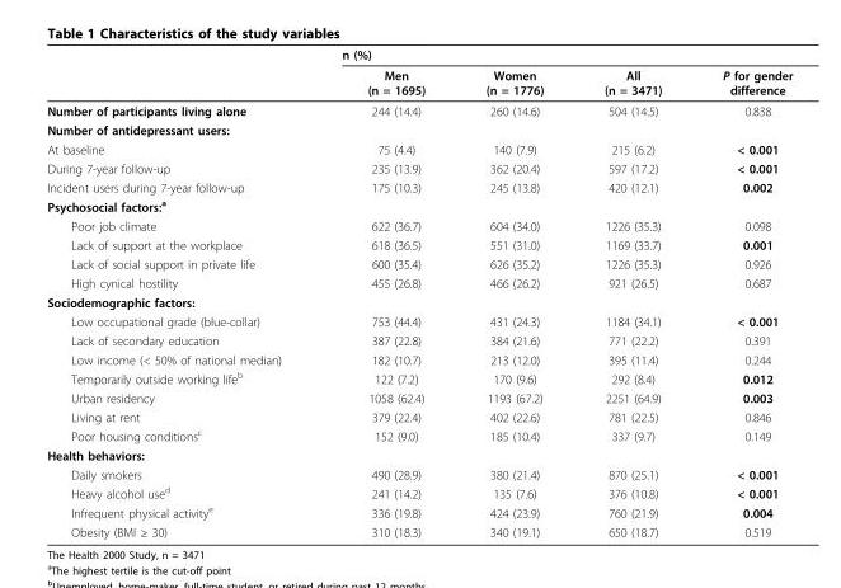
<table><thead><tr><td rowspan="2"></td><td colspan="4">n (%)</td></tr><tr><td>Men (n = 1695)</td><td>Women (n = 1776)</td><td>All (n = 3471)</td><td>P for gender difference</td></tr></thead><tbody><tr><td>Number of participants living alone</td><td>244 (14.4)</td><td>260 (14.6)</td><td>504 (14.5)</td><td>0.838</td></tr><tr><td colspan="5">Number of antidepressant users:</td></tr><tr><td>At baseline</td><td>75 (4.4)</td><td>140 (7.9)</td><td>215 (6.2)</td><td>&lt; 0.001</td></tr><tr><td>During 7-year follow-up</td><td>235 (13.9)</td><td>362 (20.4)</td><td>597 (17.2)</td><td>&lt; 0.001</td></tr><tr><td>Incident users during 7-year follow-up</td><td>175 (10.3)</td><td>245 (13.8)</td><td>420 (12.1)</td><td>0.002</td></tr><tr><td colspan="5">Psychosocial factors:<sup>a</sup></td></tr><tr><td>Poor job climate</td><td>622 (36.7)</td><td>604 (34.0)</td><td>1226 (35.3)</td><td>0.098</td></tr><tr><td>Lack of support at the workplace</td><td>618 (36.5)</td><td>551 (31.0)</td><td>1169 (33.7)</td><td>0.001</td></tr><tr><td>Lack of social support in private life</td><td>600 (35.4)</td><td>626 (35.2)</td><td>1226 (35.3)</td><td>0.926</td></tr><tr><td>High cynical hostility</td><td>455 (26.8)</td><td>466 (26.2)</td><td>921 (26.5)</td><td>0.687</td></tr><tr><td colspan="5">Sociodemographic factors:</td></tr><tr><td>Low occupational grade (blue-collar)</td><td>753 (44.4)</td><td>431 (24.3)</td><td>1184 (34.1)</td><td>&lt; 0.001</td></tr><tr><td>Lack of secondary education</td><td>387 (22.8)</td><td>384 (21.6)</td><td>771 (22.2)</td><td>0.391</td></tr><tr><td>Low income (&lt; 50% of national median)</td><td>182 (10.7)</td><td>213 (12.0)</td><td>395 (11.4)</td><td>0.244</td></tr><tr><td>Temporarily outside working life<sup>b</sup></td><td>122 (7.2)</td><td>170 (9.6)</td><td>292 (8.4)</td><td>0.012</td></tr><tr><td>Urban residency</td><td>1058 (62.4)</td><td>1193 (67.2)</td><td>2251 (64.9)</td><td>0.003</td></tr><tr><td>Living at rent</td><td>379 (22.4)</td><td>402 (22.6)</td><td>781 (22.5)</td><td>0.846</td></tr><tr><td>Poor housing conditions<sup>c</sup></td><td>152 (9.0)</td><td>185 (10.4)</td><td>337 (9.7)</td><td>0.149</td></tr><tr><td colspan="5">Health behaviors:</td></tr><tr><td>Daily smokers</td><td>490 (28.9)</td><td>380 (21.4)</td><td>870 (25.1)</td><td>&lt; 0.001</td></tr><tr><td>Heavy alcohol use<sup>d</sup></td><td>241 (14.2)</td><td>135 (7.6)</td><td>376 (10.8)</td><td>&lt; 0.001</td></tr><tr><td>Infrequent physical activity<sup>e</sup></td><td>336 (19.8)</td><td>424 (23.9)</td><td>760 (21.9)</td><td>0.004</td></tr><tr><td>Obesity (BMI ≥ 30)</td><td>310 (18.3)</td><td>340 (19.1)</td><td>650 (18.7)</td><td>0.519</td></tr></tbody></table>